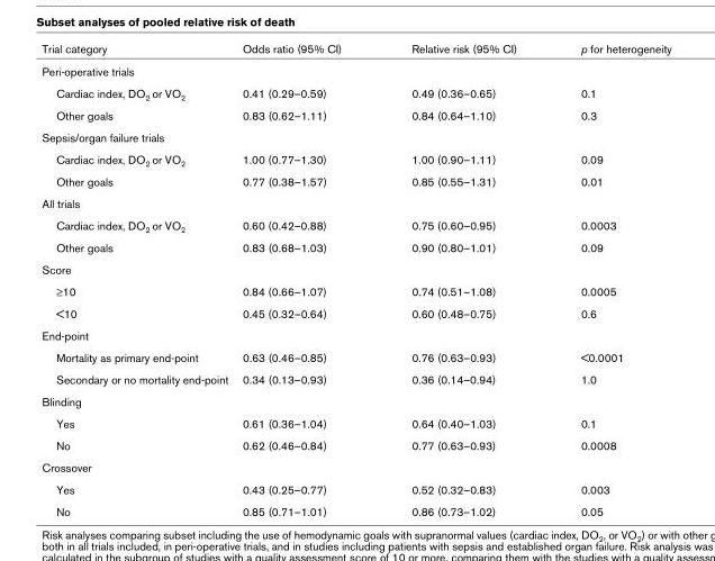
<table><thead><tr><td>Trial category</td><td>Odds ratio (95% CI)</td><td>Relative risk (95% CI)</td><td>p for heterogeneity</td></tr></thead><tbody><tr><td colspan="4">Peri-operative trials</td></tr><tr><td>Cardiac index, DO2 or VO2</td><td>0.41 (0.29–0.59)</td><td>0.49 (0.36–0.65)</td><td>0.1</td></tr><tr><td>Other goals</td><td>0.83 (0.62–1.11)</td><td>0.84 (0.64–1.10)</td><td>0.3</td></tr><tr><td colspan="4">Sepsis/organ failure trials</td></tr><tr><td>Cardiac index, DO2 or VO2</td><td>1.00 (0.77–1.30)</td><td>1.00 (0.90–1.11)</td><td>0.09</td></tr><tr><td>Other goals</td><td>0.77 (0.38–1.57)</td><td>0.85 (0.55–1.31)</td><td>0.01</td></tr><tr><td colspan="4">All trials</td></tr><tr><td>Cardiac index, DO2 or VO2</td><td>0.60 (0.42–0.88)</td><td>0.75 (0.60–0.95)</td><td>0.0003</td></tr><tr><td>Other goals</td><td>0.83 (0.68–1.03)</td><td>0.90 (0.80–1.01)</td><td>0.09</td></tr><tr><td colspan="4">Score</td></tr><tr><td>≥10</td><td>0.84 (0.66–1.07)</td><td>0.74 (0.51–1.08)</td><td>0.0005</td></tr><tr><td>&lt;10</td><td>0.45 (0.32–0.64)</td><td>0.60 (0.48–0.75)</td><td>0.6</td></tr><tr><td colspan="4">End-point</td></tr><tr><td>Mortality as primary end-point</td><td>0.63 (0.46–0.85)</td><td>0.76 (0.63–0.93)</td><td>&lt;0.0001</td></tr><tr><td>Secondary or no mortality end-point</td><td>0.34 (0.13–0.93)</td><td>0.36 (0.14–0.94)</td><td>1.0</td></tr><tr><td colspan="4">Blinding</td></tr><tr><td>Yes</td><td>0.61 (0.36–1.04)</td><td>0.64 (0.40–1.03)</td><td>0.1</td></tr><tr><td>No</td><td>0.62 (0.46–0.84)</td><td>0.77 (0.63–0.93)</td><td>0.0008</td></tr><tr><td colspan="4">Crossover</td></tr><tr><td>Yes</td><td>0.43 (0.25–0.77)</td><td>0.52 (0.32–0.83)</td><td>0.003</td></tr><tr><td>No</td><td>0.85 (0.71–1.01)</td><td>0.86 (0.73–1.02)</td><td>0.05</td></tr></tbody></table>